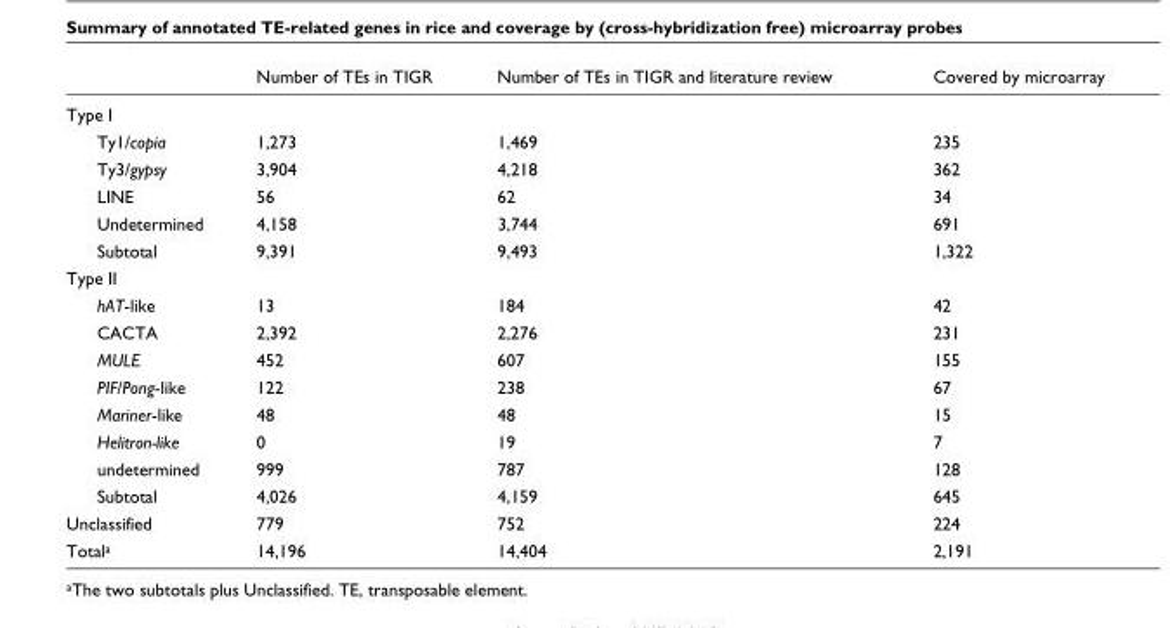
<table><thead><tr><td></td><td>Number of TEs in TIGR</td><td>Number of TEs in TIGR and literature review</td><td>Covered by microarray</td></tr></thead><tbody><tr><td colspan="4">Type I</td></tr><tr><td>Ty1/copia</td><td>1,273</td><td>1,469</td><td>235</td></tr><tr><td>Ty3/gypsy</td><td>3,904</td><td>4,218</td><td>362</td></tr><tr><td>LINE</td><td>56</td><td>62</td><td>34</td></tr><tr><td>Undetermined</td><td>4,158</td><td>3,744</td><td>691</td></tr><tr><td>Subtotal</td><td>9,391</td><td>9,493</td><td>1,322</td></tr><tr><td colspan="4">Type II</td></tr><tr><td>hAT-like</td><td>13</td><td>184</td><td>42</td></tr><tr><td>CACTA</td><td>2,392</td><td>2,276</td><td>231</td></tr><tr><td>MULE</td><td>452</td><td>607</td><td>155</td></tr><tr><td>PIF/Pong-like</td><td>122</td><td>238</td><td>67</td></tr><tr><td>Mariner-like</td><td>48</td><td>48</td><td>15</td></tr><tr><td>Helitron-like</td><td>0</td><td>19</td><td>7</td></tr><tr><td>undetermined</td><td>999</td><td>787</td><td>128</td></tr><tr><td>Subtotal</td><td>4,026</td><td>4,159</td><td>645</td></tr><tr><td>Unclassified</td><td>779</td><td>752</td><td>224</td></tr><tr><td>Totala</td><td>14,196</td><td>14,404</td><td>2,191</td></tr></tbody></table>